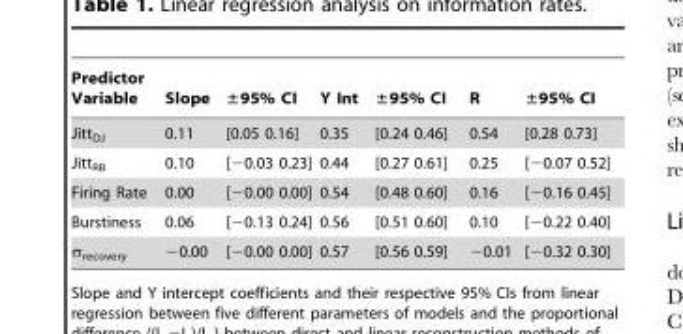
<table><thead><tr><td>Predictor Variable</td><td>Slope</td><td>±95% CI</td><td>Y Int</td><td>±95% CI</td><td>R</td><td>±95% CI</td></tr></thead><tbody><tr><td>Jitt<sub>DJ</sub></td><td>0.11</td><td>[0.05 0.16]</td><td>0.35</td><td>[0.24 0.46]</td><td>0.54</td><td>[0.28 0.73]</td></tr><tr><td>Jitt<sub>RB</sub></td><td>0.10</td><td>[−0.03 0.23]</td><td>0.44</td><td>[0.27 0.61]</td><td>0.25</td><td>[−0.07 0.52]</td></tr><tr><td>Firing Rate</td><td>0.00</td><td>[−0.00 0.00]</td><td>0.54</td><td>[0.48 0.60]</td><td>0.16</td><td>[−0.16 0.45]</td></tr><tr><td>Burstiness</td><td>0.06</td><td>[−0.13 0.24]</td><td>0.56</td><td>[0.51 0.60]</td><td>0.10</td><td>[−0.22 0.40]</td></tr><tr><td>σ<sub>recovery</sub></td><td>−0.00</td><td>[−0.00 0.00]</td><td>0.57</td><td>[0.56 0.59]</td><td>−0.01</td><td>[−0.32 0.30]</td></tr></tbody></table>